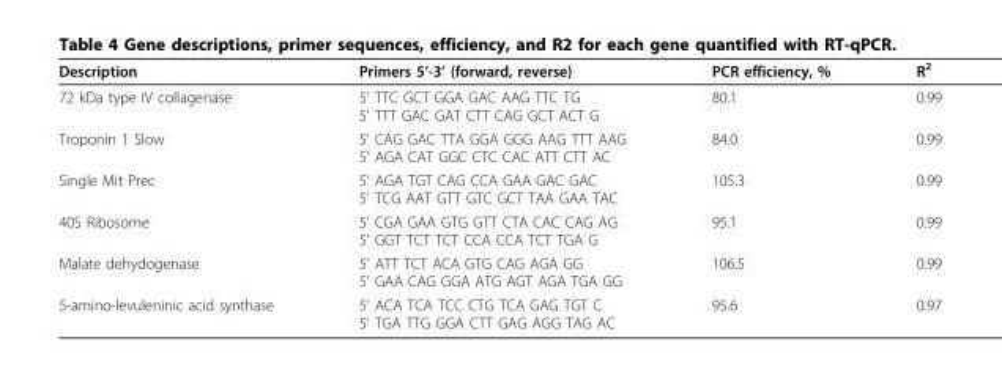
<table><thead><tr><td>Description</td><td>Primers 5’-3’ (forward, reverse)</td><td>PCR efficiency, %</td><td>R<sup>2</sup></td></tr></thead><tbody><tr><td>72 kDa type IV collagenase</td><td>5’ TTC GCT GGA GAC AAG TTC TG 5’ TTT GAC GAT CTT CAG GCT ACT G</td><td>80.1</td><td>0.99</td></tr><tr><td>Troponin 1 Slow</td><td>5’ CAG GAC TTA GGA GGG AAG TTT AAG 5’ AGA CAT GGC CTC CAC ATT CTT AC</td><td>84.0</td><td>0.99</td></tr><tr><td>Single Mit Prec</td><td>5’ AGA TGT CAG CCA GAA GAC GAC 5’ TCG AAT GTT GTC GCT TAA GAA TAC</td><td>105.3</td><td>0.99</td></tr><tr><td>40S Ribosome</td><td>5’ CGA GAA GTG GTT CTA CAC CAG AG 5’ GGT TCT TCT CCA CCA TCT TGA G</td><td>95.1</td><td>0.99</td></tr><tr><td>Malate dehydogenase</td><td>5’ ATT TCT ACA GTG CAG AGA GG 5’ GAA CAG GGA ATG AGT AGA TGA GG</td><td>106.5</td><td>0.99</td></tr><tr><td>5-amino-levuleninic acid synthase</td><td>5’ ACA TCA TCC CTG TCA GAG TGT C 5’ TGA TTG GGA CTT GAG AGG TAG AC</td><td>95.6</td><td>0.97</td></tr></tbody></table>